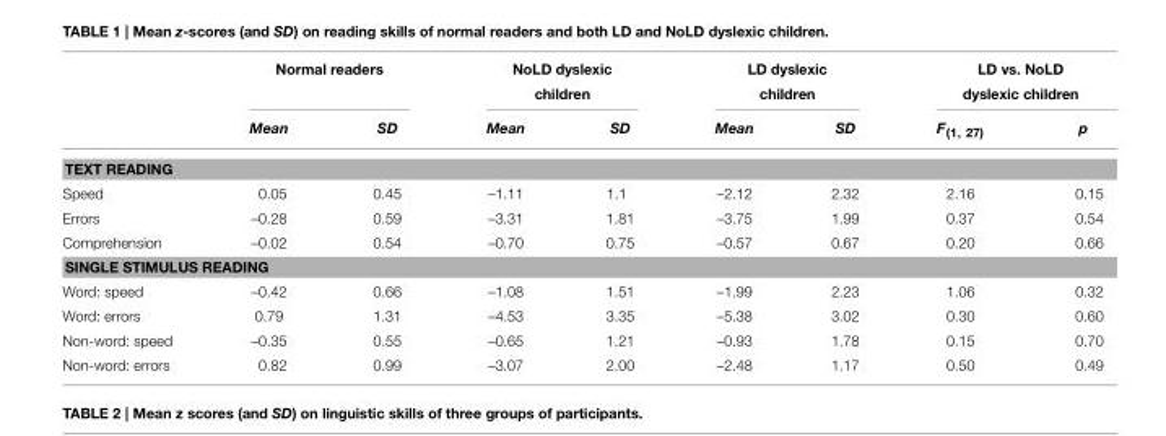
<table><thead><tr><td rowspan="2"></td><td colspan="2">Normal readers</td><td colspan="2">NoLD dyslexic children</td><td colspan="2">LD dyslexic children</td><td colspan="2">LD vs. NoLD dyslexic children</td></tr><tr><td>Mean</td><td>SD</td><td>Mean</td><td>SD</td><td>Mean</td><td>SD</td><td>F<sub>(1, 27)</sub></td><td>p</td></tr></thead><tbody><tr><td colspan="9">TEXT READING</td></tr><tr><td>Speed</td><td>0.05</td><td>0.45</td><td>–1.11</td><td>1.1</td><td>–2.12</td><td>2.32</td><td>2.16</td><td>0.15</td></tr><tr><td>Errors</td><td>–0.28</td><td>0.59</td><td>–3.31</td><td>1.81</td><td>–3.75</td><td>1.99</td><td>0.37</td><td>0.54</td></tr><tr><td>Comprehension</td><td>–0.02</td><td>0.54</td><td>–0.70</td><td>0.75</td><td>–0.57</td><td>0.67</td><td>0.20</td><td>0.66</td></tr><tr><td colspan="9">SINGLE STIMULUS READING</td></tr><tr><td>Word: speed</td><td>–0.42</td><td>0.66</td><td>–1.08</td><td>1.51</td><td>–1.99</td><td>2.23</td><td>1.06</td><td>0.32</td></tr><tr><td>Word: errors</td><td>0.79</td><td>1.31</td><td>–4.53</td><td>3.35</td><td>–5.38</td><td>3.02</td><td>0.30</td><td>0.60</td></tr><tr><td>Non-word: speed</td><td>–0.35</td><td>0.55</td><td>–0.65</td><td>1.21</td><td>–0.93</td><td>1.78</td><td>0.15</td><td>0.70</td></tr><tr><td>Non-word: errors</td><td>0.82</td><td>0.99</td><td>–3.07</td><td>2.00</td><td>–2.48</td><td>1.17</td><td>0.50</td><td>0.49</td></tr></tbody></table>